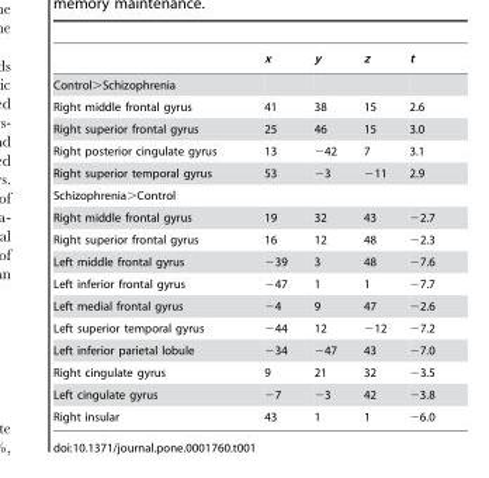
<table><thead><tr><td></td><td>x</td><td>y</td><td>z</td><td>t</td></tr></thead><tbody><tr><td colspan="5">Control&gt;Schizophrenia</td></tr><tr><td>Right middle frontal gyrus</td><td>41</td><td>38</td><td>15</td><td>2.6</td></tr><tr><td>Right superior frontal gyrus</td><td>25</td><td>46</td><td>15</td><td>3.0</td></tr><tr><td>Right posterior cingulate gyrus</td><td>13</td><td>−42</td><td>7</td><td>3.1</td></tr><tr><td>Right superior temporal gyrus</td><td>53</td><td>−3</td><td>−11</td><td>2.9</td></tr><tr><td colspan="5">Schizophrenia&gt;Control</td></tr><tr><td>Right middle frontal gyrus</td><td>19</td><td>32</td><td>43</td><td>−2.7</td></tr><tr><td>Right superior frontal gyrus</td><td>16</td><td>12</td><td>48</td><td>−2.3</td></tr><tr><td>Left middle frontal gyrus</td><td>−39</td><td>3</td><td>48</td><td>−7.6</td></tr><tr><td>Left inferior frontal gyrus</td><td>−47</td><td>1</td><td>1</td><td>−7.7</td></tr><tr><td>Left medial frontal gyrus</td><td>−4</td><td>9</td><td>47</td><td>−2.6</td></tr><tr><td>Left superior temporal gyrus</td><td>−44</td><td>12</td><td>−12</td><td>−7.2</td></tr><tr><td>Left inferior parietal lobule</td><td>−34</td><td>−47</td><td>43</td><td>−7.0</td></tr><tr><td>Right cingulate gyrus</td><td>9</td><td>21</td><td>32</td><td>−3.5</td></tr><tr><td>Left cingulate gyrus</td><td>−7</td><td>−3</td><td>42</td><td>−3.8</td></tr><tr><td>Right insular</td><td>43</td><td>1</td><td>1</td><td>−6.0</td></tr></tbody></table>